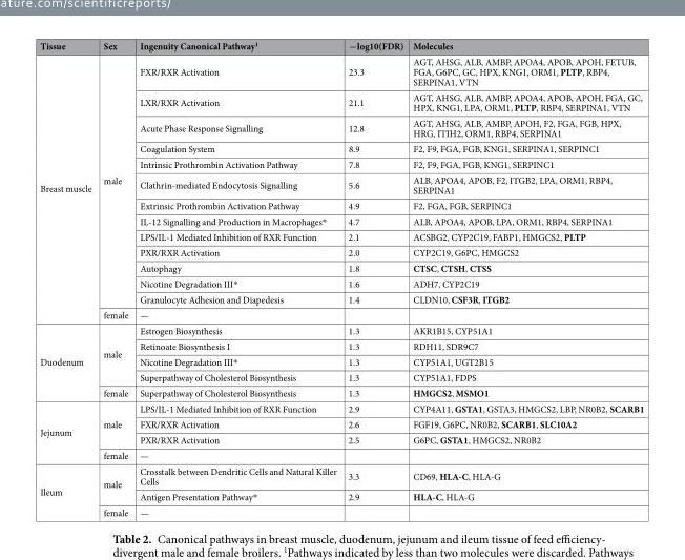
<table><thead><tr><td>Tissue</td><td>Sex</td><td>Ingenuity Canonical Pathway<sup>1</sup></td><td>−log10(FDR)</td><td>Molecules</td></tr></thead><tbody><tr><td rowspan="14">Breast muscle</td><td rowspan="13">male</td><td>FXR/RXR Activation</td><td>23.3</td><td>AGT, AHSG, ALB, AMBP, APOA4, APOB, APOH, FETUB, FGA, G6PC, GC, HPX, KNG1, ORM1, PLTP, RBP4, SERPINA1, VTN</td></tr><tr><td>LXR/RXR Activation</td><td>21.1</td><td>AGT, AHSG, ALB, AMBP, APOA4, APOB, APOH, FGA, GC, HPX, KNG1, LPA, ORM1, PLTP, RBP4, SERPINA1, VTN</td></tr><tr><td>Acute Phase Response Signalling</td><td>12.8</td><td>AGT, AHSG, ALB, AMBP, APOH, F2, FGA, FGB, HPX, HRG, ITIH2, ORM1, RBP4, SERPINA1</td></tr><tr><td>Coagulation System</td><td>8.9</td><td>F2, F9, FGA, FGB, KNG1, SERPINA1, SERPINC1</td></tr><tr><td>Intrinsic Prothrombin Activation Pathway</td><td>7.8</td><td>F2, F9, FGA, FGB, KNG1, SERPINC1</td></tr><tr><td>Clathrin-mediated Endocytosis Signalling</td><td>5.6</td><td>ALB, APOA4, APOB, F2, ITGB2, LPA, ORM1, RBP4, SERPINA1</td></tr><tr><td>Extrinsic Prothrombin Activation Pathway</td><td>4.9</td><td>F2, FGA, FGB, SERPINC1</td></tr><tr><td>IL-12 Signalling and Production in Macrophages*</td><td>4.7</td><td>ALB, APOA4, APOB, LPA, ORM1, RBP4, SERPINA1</td></tr><tr><td>LPS/IL-1 Mediated Inhibition of RXR Function</td><td>2.1</td><td>ACSBG2, CYP2C19, FABP1, HMGCS2, PLTP</td></tr><tr><td>PXR/RXR Activation</td><td>2.0</td><td>CYP2C19, G6PC, HMGCS2</td></tr><tr><td>Autophagy</td><td>1.8</td><td>CTSC, CTSH, CTSS</td></tr><tr><td>Nicotine Degradation III*</td><td>1.6</td><td>ADH7, CYP2C19</td></tr><tr><td>Granulocyte Adhesion and Diapedesis</td><td>1.4</td><td>CLDN10, CSF3R, ITGB2</td></tr><tr><td>female</td><td>—</td><td></td><td></td></tr><tr><td rowspan="5">Duodenum</td><td rowspan="4">male</td><td>Estrogen Biosynthesis</td><td>1.3</td><td>AKR1B15, CYP51A1</td></tr><tr><td>Retinoate Biosynthesis I</td><td>1.3</td><td>RDH11, SDR9C7</td></tr><tr><td>Nicotine Degradation III*</td><td>1.3</td><td>CYP51A1, UGT2B15</td></tr><tr><td>Superpathway of Cholesterol Biosynthesis</td><td>1.3</td><td>CYP51A1, FDPS</td></tr><tr><td>female</td><td>Superpathway of Cholesterol Biosynthesis</td><td>1.3</td><td>HMGCS2, MSMO1</td></tr><tr><td rowspan="4">Jejunum</td><td rowspan="3">male</td><td>LPS/IL-1 Mediated Inhibition of RXR Function</td><td>2.9</td><td>CYP4A11, GSTA1, GSTA3, HMGCS2, LBP, NR0B2, SCARB1</td></tr><tr><td>FXR/RXR Activation</td><td>2.6</td><td>FGF19, G6PC, NR0B2, SCARB1, SLC10A2</td></tr><tr><td>PXR/RXR Activation</td><td>2.5</td><td>G6PC, GSTA1, HMGCS2, NR0B2</td></tr><tr><td>female</td><td>—</td><td></td><td></td></tr><tr><td rowspan="3">Ileum</td><td rowspan="2">male</td><td>Crosstalk between Dendritic Cells and Natural Killer Cells</td><td>3.3</td><td>CD69, HLA-C, HLA-G</td></tr><tr><td>Antigen Presentation Pathway*</td><td>2.9</td><td>HLA-C, HLA-G</td></tr><tr><td>female</td><td>—</td><td></td><td></td></tr></tbody></table>